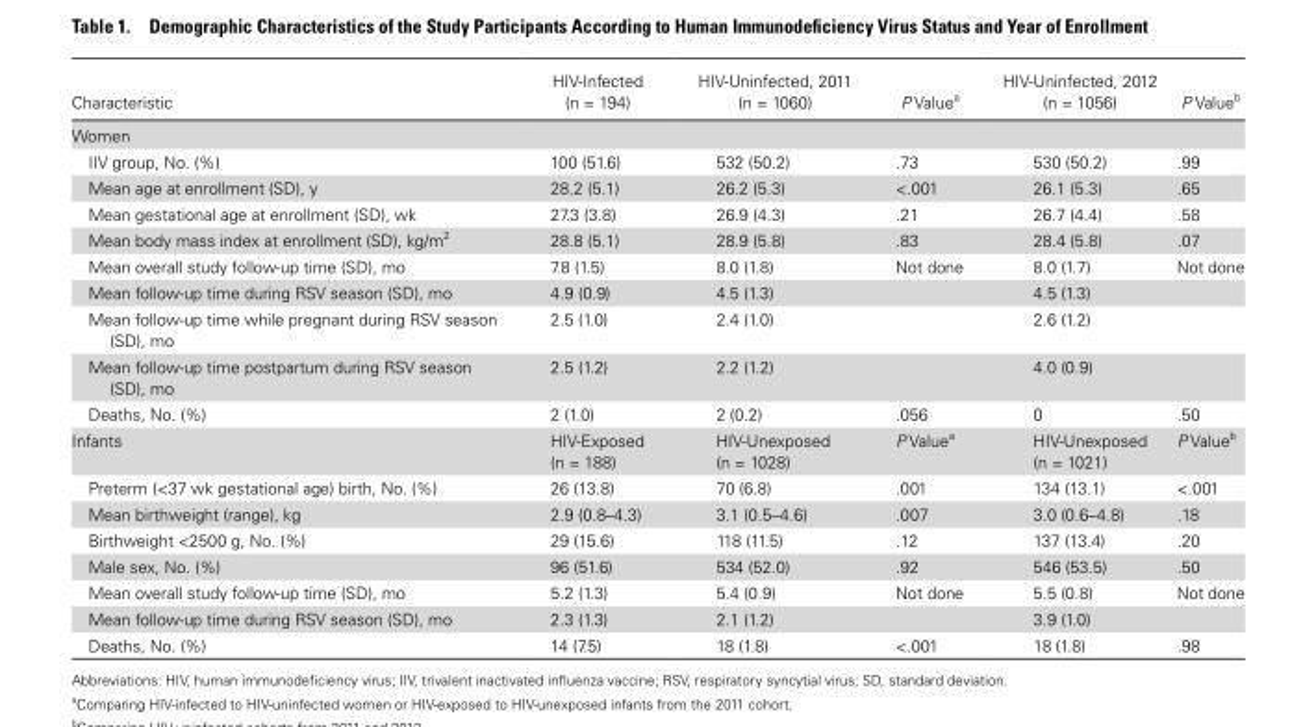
<table><thead><tr><td>Characteristic</td><td>HIV-Infected (n = 194)</td><td>HIV-Uninfected, 2011 (n = 1060)</td><td>P Value<sup>a</sup></td><td>HIV-Uninfected, 2012 (n = 1056)</td><td>P Value<sup>b</sup></td></tr></thead><tbody><tr><td colspan="6">Women</td></tr><tr><td>IIV group, No. (%)</td><td>100 (51.6)</td><td>532 (50.2)</td><td>.73</td><td>530 (50.2)</td><td>.99</td></tr><tr><td>Mean age at enrollment (SD), y</td><td>28.2 (5.1)</td><td>26.2 (5.3)</td><td>&lt;.001</td><td>26.1 (5.3)</td><td>.65</td></tr><tr><td>Mean gestational age at enrollment (SD), wk</td><td>27.3 (3.8)</td><td>26.9 (4.3)</td><td>.21</td><td>26.7 (4.4)</td><td>.58</td></tr><tr><td>Mean body mass index at enrollment (SD), kg/m<sup>2</sup></td><td>28.8 (5.1)</td><td>28.9 (5.8)</td><td>.83</td><td>28.4 (5.8)</td><td>.07</td></tr><tr><td>Mean overall study follow-up time (SD), mo</td><td>7.8 (1.5)</td><td>8.0 (1.8)</td><td>Not done</td><td>8.0 (1.7)</td><td>Not done</td></tr><tr><td>Mean follow-up time during RSV season (SD), mo</td><td>4.9 (0.9)</td><td>4.5 (1.3)</td><td></td><td>4.5 (1.3)</td><td></td></tr><tr><td>Mean follow-up time while pregnant during RSV season (SD), mo</td><td>2.5 (1.0)</td><td>2.4 (1.0)</td><td></td><td>2.6 (1.2)</td><td></td></tr><tr><td>Mean follow-up time postpartum during RSV season (SD), mo</td><td>2.5 (1.2)</td><td>2.2 (1.2)</td><td></td><td>4.0 (0.9)</td><td></td></tr><tr><td>Deaths, No. (%)</td><td>2 (1.0)</td><td>2 (0.2)</td><td>.056</td><td>0</td><td>.50</td></tr><tr><td>Infants</td><td>HIV-Exposed (n = 188)</td><td>HIV-Unexposed (n = 1028)</td><td>P Value<sup>a</sup></td><td>HIV-Unexposed (n = 1021)</td><td>P Value<sup>b</sup></td></tr><tr><td>Preterm (&lt;37 wk gestational age) birth, No. (%)</td><td>26 (13.8)</td><td>70 (6.8)</td><td>.001</td><td>134 (13.1)</td><td>&lt;.001</td></tr><tr><td>Mean birthweight (range), kg</td><td>2.9 (0.8–4.3)</td><td>3.1 (0.5–4.6)</td><td>.007</td><td>3.0 (0.6–4.8)</td><td>.18</td></tr><tr><td>Birthweight &lt;2500 g, No. (%)</td><td>29 (15.6)</td><td>118 (11.5)</td><td>.12</td><td>137 (13.4)</td><td>.20</td></tr><tr><td>Male sex, No. (%)</td><td>96 (51.6)</td><td>534 (52.0)</td><td>.92</td><td>546 (53.5)</td><td>.50</td></tr><tr><td>Mean overall study follow-up time (SD), mo</td><td>5.2 (1.3)</td><td>5.4 (0.9)</td><td>Not done</td><td>5.5 (0.8)</td><td>Not done</td></tr><tr><td>Mean follow-up time during RSV season (SD), mo</td><td>2.3 (1.3)</td><td>2.1 (1.2)</td><td></td><td>3.9 (1.0)</td><td></td></tr><tr><td>Deaths, No. (%)</td><td>14 (7.5)</td><td>18 (1.8)</td><td>&lt;.001</td><td>18 (1.8)</td><td>.98</td></tr></tbody></table>